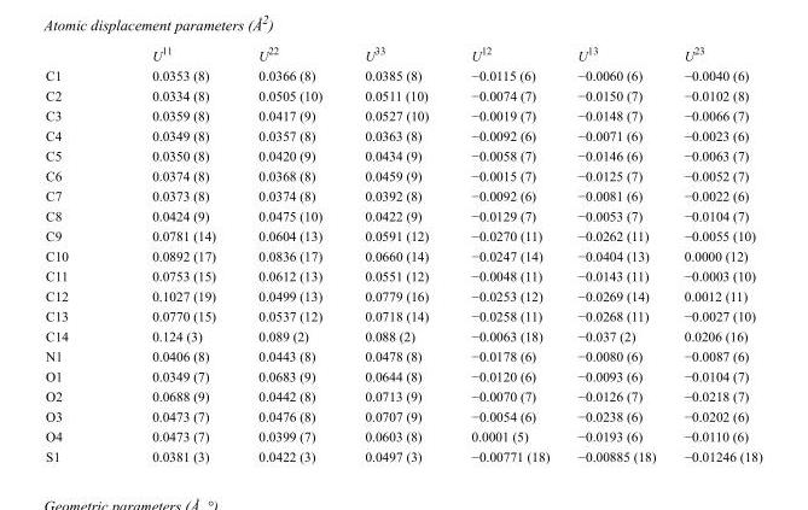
<table><thead><tr><td></td><td>U<sup>11</sup></td><td>U<sup>22</sup></td><td>U<sup>33</sup></td><td>U<sup>12</sup></td><td>U<sup>13</sup></td><td>U<sup>23</sup></td></tr></thead><tbody><tr><td>C1</td><td>0.0353 (8)</td><td>0.0366 (8)</td><td>0.0385 (8)</td><td>−0.0115 (6)</td><td>−0.0060 (6)</td><td>−0.0040 (6)</td></tr><tr><td>C2</td><td>0.0334 (8)</td><td>0.0505 (10)</td><td>0.0511 (10)</td><td>−0.0074 (7)</td><td>−0.0150 (7)</td><td>−0.0102 (8)</td></tr><tr><td>C3</td><td>0.0359 (8)</td><td>0.0417 (9)</td><td>0.0527 (10)</td><td>−0.0019 (7)</td><td>−0.0148 (7)</td><td>−0.0066 (7)</td></tr><tr><td>C4</td><td>0.0349 (8)</td><td>0.0357 (8)</td><td>0.0363 (8)</td><td>−0.0092 (6)</td><td>−0.0071 (6)</td><td>−0.0023 (6)</td></tr><tr><td>C5</td><td>0.0350 (8)</td><td>0.0420 (9)</td><td>0.0434 (9)</td><td>−0.0058 (7)</td><td>−0.0146 (6)</td><td>−0.0063 (7)</td></tr><tr><td>C6</td><td>0.0374 (8)</td><td>0.0368 (8)</td><td>0.0459 (9)</td><td>−0.0015 (7)</td><td>−0.0125 (7)</td><td>−0.0052 (7)</td></tr><tr><td>C7</td><td>0.0373 (8)</td><td>0.0374 (8)</td><td>0.0392 (8)</td><td>−0.0092 (6)</td><td>−0.0081 (6)</td><td>−0.0022 (6)</td></tr><tr><td>C8</td><td>0.0424 (9)</td><td>0.0475 (10)</td><td>0.0422 (9)</td><td>−0.0129 (7)</td><td>−0.0053 (7)</td><td>−0.0104 (7)</td></tr><tr><td>C9</td><td>0.0781 (14)</td><td>0.0604 (13)</td><td>0.0591 (12)</td><td>−0.0270 (11)</td><td>−0.0262 (11)</td><td>−0.0055 (10)</td></tr><tr><td>C10</td><td>0.0892 (17)</td><td>0.0836 (17)</td><td>0.0660 (14)</td><td>−0.0247 (14)</td><td>−0.0404 (13)</td><td>0.0000 (12)</td></tr><tr><td>C11</td><td>0.0753 (15)</td><td>0.0612 (13)</td><td>0.0551 (12)</td><td>−0.0048 (11)</td><td>−0.0143 (11)</td><td>−0.0003 (10)</td></tr><tr><td>C12</td><td>0.1027 (19)</td><td>0.0499 (13)</td><td>0.0779 (16)</td><td>−0.0253 (12)</td><td>−0.0269 (14)</td><td>0.0012 (11)</td></tr><tr><td>C13</td><td>0.0770 (15)</td><td>0.0537 (12)</td><td>0.0718 (14)</td><td>−0.0258 (11)</td><td>−0.0268 (11)</td><td>−0.0027 (10)</td></tr><tr><td>C14</td><td>0.124 (3)</td><td>0.089 (2)</td><td>0.088 (2)</td><td>−0.0063 (18)</td><td>−0.037 (2)</td><td>0.0206 (16)</td></tr><tr><td>N1</td><td>0.0406 (8)</td><td>0.0443 (8)</td><td>0.0478 (8)</td><td>−0.0178 (6)</td><td>−0.0080 (6)</td><td>−0.0087 (6)</td></tr><tr><td>O1</td><td>0.0349 (7)</td><td>0.0683 (9)</td><td>0.0644 (8)</td><td>−0.0120 (6)</td><td>−0.0093 (6)</td><td>−0.0104 (7)</td></tr><tr><td>O2</td><td>0.0688 (9)</td><td>0.0442 (8)</td><td>0.0713 (9)</td><td>−0.0070 (7)</td><td>−0.0126 (7)</td><td>−0.0218 (7)</td></tr><tr><td>O3</td><td>0.0473 (7)</td><td>0.0476 (8)</td><td>0.0707 (9)</td><td>−0.0054 (6)</td><td>−0.0238 (6)</td><td>−0.0202 (6)</td></tr><tr><td>O4</td><td>0.0473 (7)</td><td>0.0399 (7)</td><td>0.0603 (8)</td><td>0.0001 (5)</td><td>−0.0193 (6)</td><td>−0.0110 (6)</td></tr><tr><td>S1</td><td>0.0381 (3)</td><td>0.0422 (3)</td><td>0.0497 (3)</td><td>−0.00771 (18)</td><td>−0.00885 (18)</td><td>−0.01246 (18)</td></tr></tbody></table>